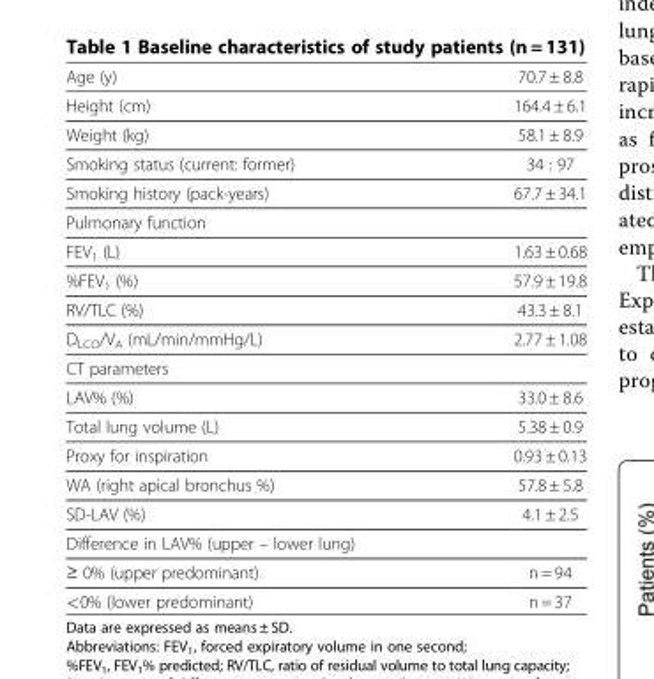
<table><tbody><tr><td>Age (y)</td><td>70.7 ± 8.8</td></tr><tr><td>Height (cm)</td><td>164.4 ± 6.1</td></tr><tr><td>Weight (kg)</td><td>58.1 ± 8.9</td></tr><tr><td>Smoking status (current: former)</td><td>34 : 97</td></tr><tr><td>Smoking history (pack-years)</td><td>67.7 ± 34.1</td></tr><tr><td colspan="2">Pulmonary function</td></tr><tr><td>FEV<sub>1</sub> (L)</td><td>1.63 ± 0.68</td></tr><tr><td>%FEV<sub>1</sub> (%)</td><td>57.9 ± 19.8</td></tr><tr><td>RV/TLC (%)</td><td>43.3 ± 8.1</td></tr><tr><td>D<sub>LCO</sub>/V<sub>A</sub> (mL/min/mmHg/L)</td><td>2.77 ± 1.08</td></tr><tr><td colspan="2">CT parameters</td></tr><tr><td>LAV% (%)</td><td>33.0 ± 8.6</td></tr><tr><td>Total lung volume (L)</td><td>5.38 ± 0.9</td></tr><tr><td>Proxy for inspiration</td><td>0.93 ± 0.13</td></tr><tr><td>WA (right apical bronchus %)</td><td>57.8 ± 5.8</td></tr><tr><td>SD-LAV (%)</td><td>4.1 ± 2.5</td></tr><tr><td colspan="2">Difference in LAV% (upper – lower lung)</td></tr><tr><td>≥ 0% (upper predominant)</td><td>n = 94</td></tr><tr><td>&lt;0% (lower predominant)</td><td>n = 37</td></tr></tbody></table>